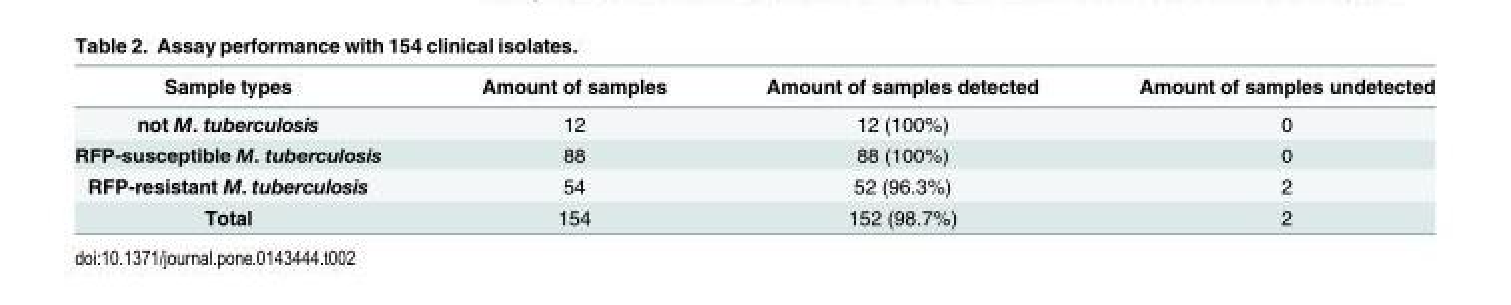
<table><thead><tr><td>Sample types</td><td>Amount of samples</td><td>Amount of samples detected</td><td>Amount of samples undetected</td></tr></thead><tbody><tr><td>not M. tuberculosis</td><td>12</td><td>12 (100%)</td><td>0</td></tr><tr><td>RFP-susceptible M. tuberculosis</td><td>88</td><td>88 (100%)</td><td>0</td></tr><tr><td>RFP-resistant M. tuberculosis</td><td>54</td><td>52 (96.3%)</td><td>2</td></tr><tr><td>Total</td><td>154</td><td>152 (98.7%)</td><td>2</td></tr></tbody></table>